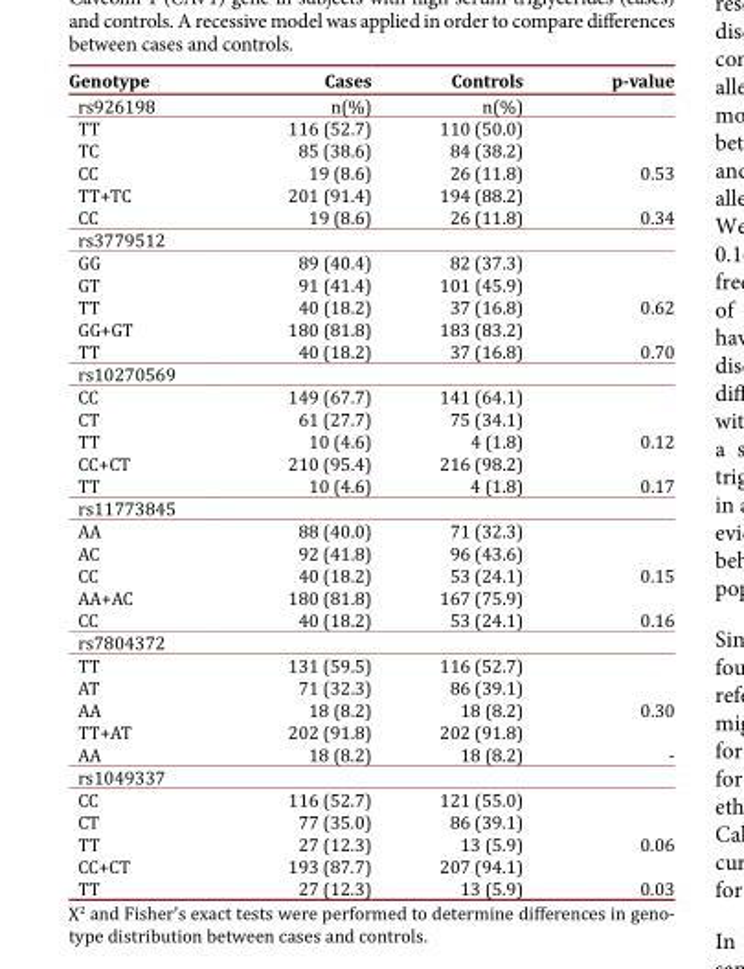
<table><thead><tr><td>Genotype</td><td>Cases</td><td>Controls</td><td>p-value</td></tr></thead><tbody><tr><td>rs926198</td><td>n(%)</td><td>n(%)</td><td></td></tr><tr><td>TT</td><td>116 (52.7)</td><td>110 (50.0)</td><td></td></tr><tr><td>TC</td><td>85 (38.6)</td><td>84 (38.2)</td><td></td></tr><tr><td>CC</td><td>19 (8.6)</td><td>26 (11.8)</td><td>0.53</td></tr><tr><td>TT+TC</td><td>201 (91.4)</td><td>194 (88.2)</td><td></td></tr><tr><td>CC</td><td>19 (8.6)</td><td>26 (11.8)</td><td>0.34</td></tr><tr><td colspan="4">rs3779512</td></tr><tr><td>GG</td><td>89 (40.4)</td><td>82 (37.3)</td><td></td></tr><tr><td>GT</td><td>91 (41.4)</td><td>101 (45.9)</td><td></td></tr><tr><td>TT</td><td>40 (18.2)</td><td>37 (16.8)</td><td>0.62</td></tr><tr><td>GG+GT</td><td>180 (81.8)</td><td>183 (83.2)</td><td></td></tr><tr><td>TT</td><td>40 (18.2)</td><td>37 (16.8)</td><td>0.70</td></tr><tr><td colspan="4">rs10270569</td></tr><tr><td>CC</td><td>149 (67.7)</td><td>141 (64.1)</td><td></td></tr><tr><td>CT</td><td>61 (27.7)</td><td>75 (34.1)</td><td></td></tr><tr><td>TT</td><td>10 (4.6)</td><td>4 (1.8)</td><td>0.12</td></tr><tr><td>CC+CT</td><td>210 (95.4)</td><td>216 (98.2)</td><td></td></tr><tr><td>TT</td><td>10 (4.6)</td><td>4 (1.8)</td><td>0.17</td></tr><tr><td colspan="4">rs11773845</td></tr><tr><td>AA</td><td>88 (40.0)</td><td>71 (32.3)</td><td></td></tr><tr><td>AC</td><td>92 (41.8)</td><td>96 (43.6)</td><td></td></tr><tr><td>CC</td><td>40 (18.2)</td><td>53 (24.1)</td><td>0.15</td></tr><tr><td>AA+AC</td><td>180 (81.8)</td><td>167 (75.9)</td><td></td></tr><tr><td>CC</td><td>40 (18.2)</td><td>53 (24.1)</td><td>0.16</td></tr><tr><td colspan="4">rs7804372</td></tr><tr><td>TT</td><td>131 (59.5)</td><td>116 (52.7)</td><td></td></tr><tr><td>AT</td><td>71 (32.3)</td><td>86 (39.1)</td><td></td></tr><tr><td>AA</td><td>18 (8.2)</td><td>18 (8.2)</td><td>0.30</td></tr><tr><td>TT+AT</td><td>202 (91.8)</td><td>202 (91.8)</td><td></td></tr><tr><td>AA</td><td>18 (8.2)</td><td>18 (8.2)</td><td>-</td></tr><tr><td colspan="4">rs1049337</td></tr><tr><td>CC</td><td>116 (52.7)</td><td>121 (55.0)</td><td></td></tr><tr><td>CT</td><td>77 (35.0)</td><td>86 (39.1)</td><td></td></tr><tr><td>TT</td><td>27 (12.3)</td><td>13 (5.9)</td><td>0.06</td></tr><tr><td>CC+CT</td><td>193 (87.7)</td><td>207 (94.1)</td><td></td></tr><tr><td>TT</td><td>27 (12.3)</td><td>13 (5.9)</td><td>0.03</td></tr></tbody></table>